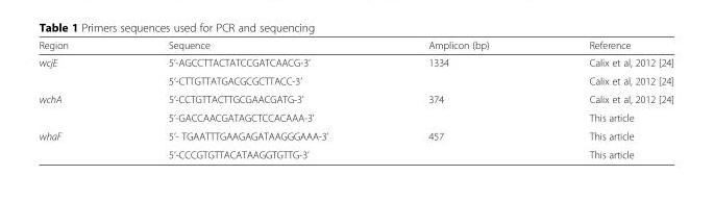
<table><thead><tr><td>Region</td><td>Sequence</td><td>Amplicon (bp)</td><td>Reference</td></tr></thead><tbody><tr><td rowspan="2">wcjE</td><td>5’-AGCCTTACTATCCGATCAACG-3’</td><td rowspan="2">1334</td><td>Calix et al, 2012 [24]</td></tr><tr><td>5’-CTTGTTATGACGCGCTTACC-3’</td><td>Calix et al, 2012 [24]</td></tr><tr><td rowspan="2">wchA</td><td>5’-CCTGTTACTTGCGAACGATG-3’</td><td rowspan="2">374</td><td>Calix et al, 2012 [24]</td></tr><tr><td>5’-GACCAACGATAGCTCCACAAA-3’</td><td>This article</td></tr><tr><td rowspan="2">whaF</td><td>5’- TGAATTTGAAGAGATAAGGGAAA-3’</td><td rowspan="2">457</td><td>This article</td></tr><tr><td>5’-CCCGTGTTACATAAGGTGTTG-3’</td><td>This article</td></tr></tbody></table>